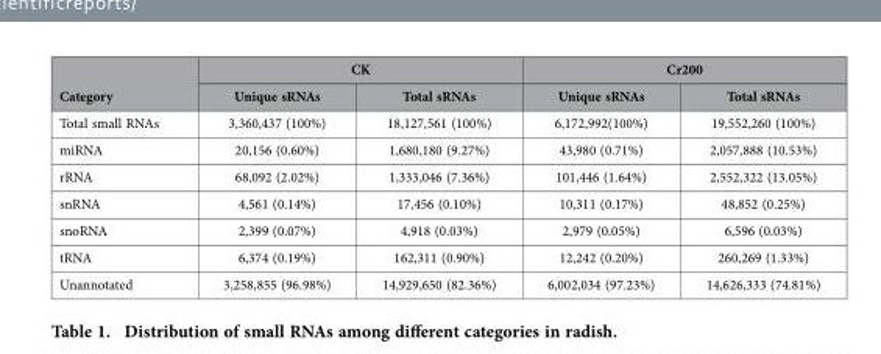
<table><thead><tr><td rowspan="2">Category</td><td colspan="2">CK</td><td colspan="2">Cr200</td></tr><tr><td>Unique sRNAs</td><td>Total sRNAs</td><td>Unique sRNAs</td><td>Total sRNAs</td></tr></thead><tbody><tr><td>Total small RNAs</td><td>3,360,437 (100%)</td><td>18,127,561 (100%)</td><td>6,172,992(100%)</td><td>19,552,260 (100%)</td></tr><tr><td>miRNA</td><td>20,156 (0.60%)</td><td>1,680,180 (9.27%)</td><td>43,980 (0.71%)</td><td>2,057,888 (10.53%)</td></tr><tr><td>rRNA</td><td>68,092 (2.02%)</td><td>1,333,046 (7.36%)</td><td>101,446 (1.64%)</td><td>2,552,322 (13.05%)</td></tr><tr><td>snRNA</td><td>4,561 (0.14%)</td><td>17,456 (0.10%)</td><td>10,311 (0.17%)</td><td>48,852 (0.25%)</td></tr><tr><td>snoRNA</td><td>2,399 (0.07%)</td><td>4,918 (0.03%)</td><td>2,979 (0.05%)</td><td>6,596 (0.03%)</td></tr><tr><td>tRNA</td><td>6,374 (0.19%)</td><td>162,311 (0.90%)</td><td>12,242 (0.20%)</td><td>260,269 (1.33%)</td></tr><tr><td>Unannotated</td><td>3,258,855 (96.98%)</td><td>14,929,650 (82.36%)</td><td>6,002,034 (97.23%)</td><td>14,626,333 (74.81%)</td></tr></tbody></table>